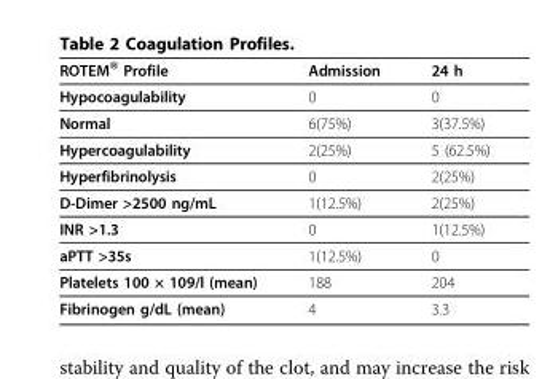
<table><thead><tr><td>ROTEM<sup>®</sup> Profile</td><td>Admission</td><td>24 h</td></tr></thead><tbody><tr><td>Hypocoagulability</td><td>0</td><td>0</td></tr><tr><td>Normal</td><td>6(75%)</td><td>3(37.5%)</td></tr><tr><td>Hypercoagulability</td><td>2(25%)</td><td>5 (62.5%)</td></tr><tr><td>Hyperfibrinolysis</td><td>0</td><td>2(25%)</td></tr><tr><td>D-Dimer &gt;2500 ng/mL</td><td>1(12.5%)</td><td>2(25%)</td></tr><tr><td>INR &gt;1.3</td><td>0</td><td>1(12.5%)</td></tr><tr><td>aPTT &gt;35s</td><td>1(12.5%)</td><td>0</td></tr><tr><td>Platelets 100 × 109/l (mean)</td><td>188</td><td>204</td></tr><tr><td>Fibrinogen g/dL (mean)</td><td>4</td><td>3.3</td></tr></tbody></table>